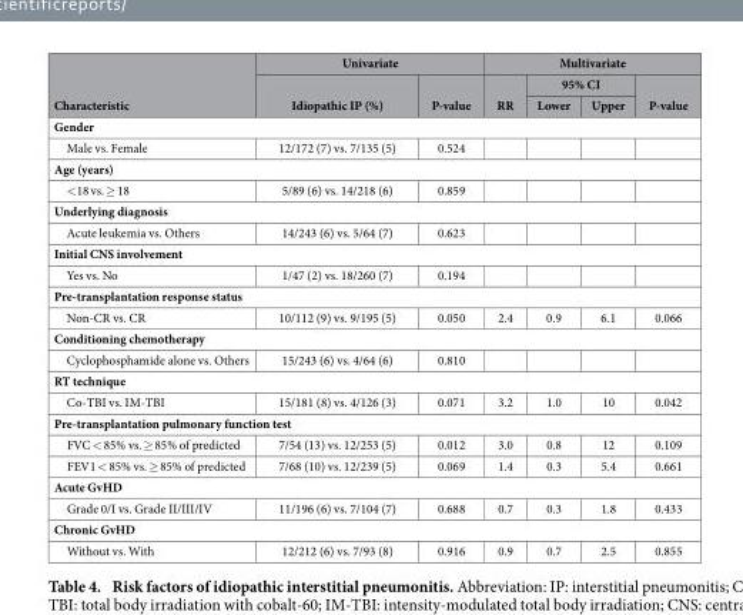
<table><thead><tr><td rowspan="3">Characteristic</td><td colspan="2">Univariate</td><td colspan="4">Multivariate</td></tr><tr><td rowspan="2">Idiopathic IP (%)</td><td rowspan="2">P-value</td><td rowspan="2">RR</td><td colspan="2">95% CI</td><td rowspan="2">P-value</td></tr><tr><td>Lower</td><td>Upper</td></tr></thead><tbody><tr><td colspan="7">Gender</td></tr><tr><td>Male vs. Female</td><td>12/172 (7) vs. 7/135 (5)</td><td>0.524</td><td></td><td></td><td></td><td></td></tr><tr><td colspan="7">Age (years)</td></tr><tr><td>&lt; 18 vs. ≥ 18</td><td>5/89 (6) vs. 14/218 (6)</td><td>0.859</td><td></td><td></td><td></td><td></td></tr><tr><td colspan="7">Underlying diagnosis</td></tr><tr><td>Acute leukemia vs. Others</td><td>14/243 (6) vs. 5/64 (7)</td><td>0.623</td><td></td><td></td><td></td><td></td></tr><tr><td colspan="7">Initial CNS involvement</td></tr><tr><td>Yes vs. No</td><td>1/47 (2) vs. 18/260 (7)</td><td>0.194</td><td></td><td></td><td></td><td></td></tr><tr><td colspan="7">Pre-transplantation response status</td></tr><tr><td>Non-CR vs. CR</td><td>10/112 (9) vs. 9/195 (5)</td><td>0.050</td><td>2.4</td><td>0.9</td><td>6.1</td><td>0.066</td></tr><tr><td colspan="7">Conditioning chemotherapy</td></tr><tr><td>Cyclophosphamide alone vs. Others</td><td>15/243 (6) vs. 4/64 (6)</td><td>0.810</td><td></td><td></td><td></td><td></td></tr><tr><td colspan="7">RT technique</td></tr><tr><td>Co-TBI vs. IM-TBI</td><td>15/181 (8) vs. 4/126 (3)</td><td>0.071</td><td>3.2</td><td>1.0</td><td>10</td><td>0.042</td></tr><tr><td colspan="7">Pre-transplantation pulmonary function test</td></tr><tr><td>FVC &lt; 85% vs. ≥ 85% of predicted</td><td>7/54 (13) vs. 12/253 (5)</td><td>0.012</td><td>3.0</td><td>0.8</td><td>12</td><td>0.109</td></tr><tr><td>FEV1 &lt; 85% vs. ≥ 85% of predicted</td><td>7/68 (10) vs. 12/239 (5)</td><td>0.069</td><td>1.4</td><td>0.3</td><td>5.4</td><td>0.661</td></tr><tr><td colspan="7">Acute GvHD</td></tr><tr><td>Grade 0/I vs. Grade II/III/IV</td><td>11/196 (6) vs. 7/104 (7)</td><td>0.688</td><td>0.7</td><td>0.3</td><td>1.8</td><td>0.433</td></tr><tr><td colspan="7">Chronic GvHD</td></tr><tr><td>Without vs. With</td><td>12/212 (6) vs. 7/93 (8)</td><td>0.916</td><td>0.9</td><td>0.7</td><td>2.5</td><td>0.855</td></tr></tbody></table>